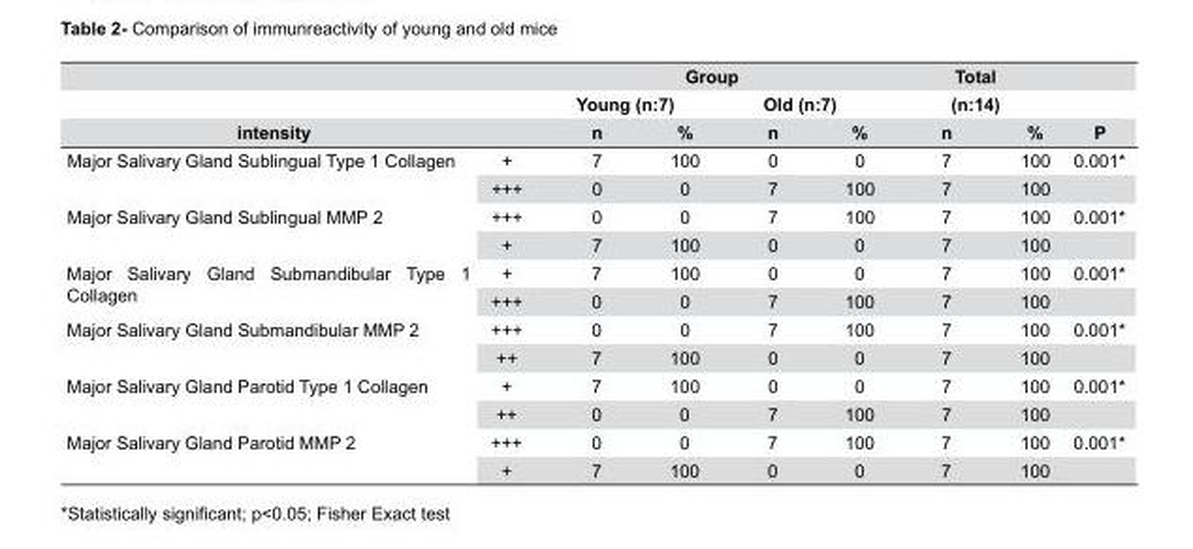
<table><thead><tr><td rowspan="3">intensity</td><td rowspan="3"></td><td colspan="4">Group</td><td rowspan="2" colspan="2">Total (n:14)</td><td rowspan="3">P</td></tr><tr><td colspan="2">Young (n:7)</td><td colspan="2">Old (n:7)</td></tr><tr><td>n</td><td>%</td><td>n</td><td>%</td><td>n</td><td>%</td></tr></thead><tbody><tr><td rowspan="2">Major Salivary Gland Sublingual Type 1 Collagen</td><td>+</td><td>7</td><td>100</td><td>0</td><td>0</td><td>7</td><td>100</td><td>0.001*</td></tr><tr><td>+++</td><td>0</td><td>0</td><td>7</td><td>100</td><td>7</td><td>100</td><td></td></tr><tr><td rowspan="2">Major Salivary Gland Sublingual MMP 2</td><td>+++</td><td>0</td><td>0</td><td>7</td><td>100</td><td>7</td><td>100</td><td>0.001*</td></tr><tr><td>+</td><td>7</td><td>100</td><td>0</td><td>0</td><td>7</td><td>100</td><td></td></tr><tr><td rowspan="2">Major Salivary Gland Submandibular Type 1 Collagen</td><td>+</td><td>7</td><td>100</td><td>0</td><td>0</td><td>7</td><td>100</td><td>0.001*</td></tr><tr><td>+++</td><td>0</td><td>0</td><td>7</td><td>100</td><td>7</td><td>100</td><td></td></tr><tr><td rowspan="2">Major Salivary Gland Submandibular MMP 2</td><td>+++</td><td>0</td><td>0</td><td>7</td><td>100</td><td>7</td><td>100</td><td>0.001*</td></tr><tr><td>++</td><td>7</td><td>100</td><td>0</td><td>0</td><td>7</td><td>100</td><td></td></tr><tr><td rowspan="2">Major Salivary Gland Parotid Type 1 Collagen</td><td>+</td><td>7</td><td>100</td><td>0</td><td>0</td><td>7</td><td>100</td><td>0.001*</td></tr><tr><td>++</td><td>0</td><td>0</td><td>7</td><td>100</td><td>7</td><td>100</td><td></td></tr><tr><td rowspan="2">Major Salivary Gland Parotid MMP 2</td><td>+++</td><td>0</td><td>0</td><td>7</td><td>100</td><td>7</td><td>100</td><td>0.001*</td></tr><tr><td>+</td><td>7</td><td>100</td><td>0</td><td>0</td><td>7</td><td>100</td><td></td></tr></tbody></table>